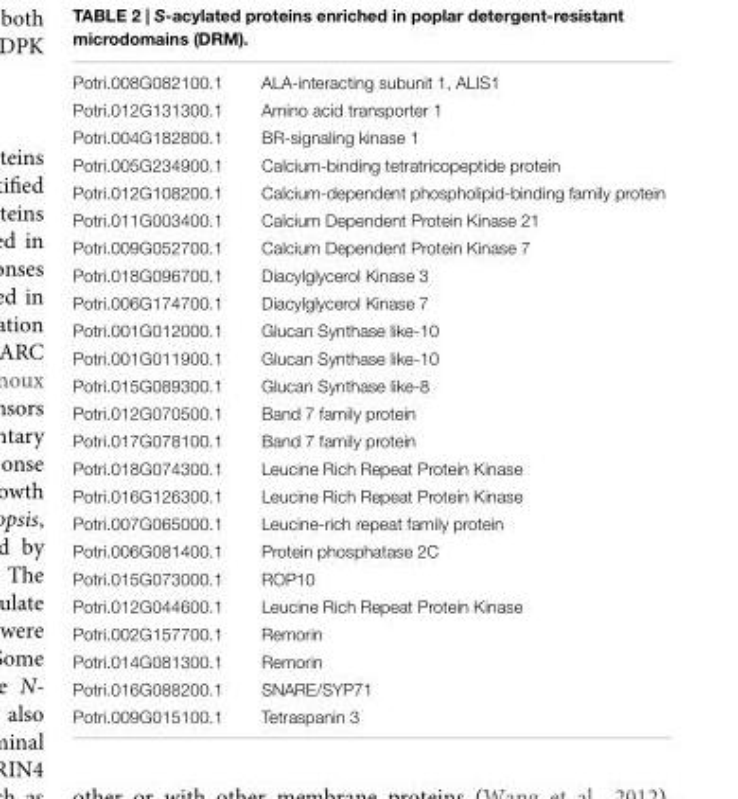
<table><tbody><tr><td>Potri.008G082100.1</td><td>ALA-interacting subunit 1, ALIS1</td></tr><tr><td>Potri.012G131300.1</td><td>Amino acid transporter 1</td></tr><tr><td>Potri.004G182800.1</td><td>BR-signaling kinase 1</td></tr><tr><td>Potri.005G234900.1</td><td>Calcium-binding tetratricopeptide protein</td></tr><tr><td>Potri.012G108200.1</td><td>Calcium-dependent phospholipid-binding family protein</td></tr><tr><td>Potri.011G003400.1</td><td>Calcium Dependent Protein Kinase 21</td></tr><tr><td>Potri.009G052700.1</td><td>Calcium Dependent Protein Kinase 7</td></tr><tr><td>Potri.018G096700.1</td><td>Diacylglycerol Kinase 3</td></tr><tr><td>Potri.006G174700.1</td><td>Diacylglycerol Kinase 7</td></tr><tr><td>Potri.001G012000.1</td><td>Glucan Synthase like-10</td></tr><tr><td>Potri.001G011900.1</td><td>Glucan Synthase like-10</td></tr><tr><td>Potri.015G089300.1</td><td>Glucan Synthase like-8</td></tr><tr><td>Potri.012G070500.1</td><td>Band 7 family protein</td></tr><tr><td>Potri.017G078100.1</td><td>Band 7 family protein</td></tr><tr><td>Potri.018G074300.1</td><td>Leucine Rich Repeat Protein Kinase</td></tr><tr><td>Potri.016G126300.1</td><td>Leucine Rich Repeat Protein Kinase</td></tr><tr><td>Potri.007G065000.1</td><td>Leucine-rich repeat family protein</td></tr><tr><td>Potri.006G081400.1</td><td>Protein phosphatase 2C</td></tr><tr><td>Potri.015G073000.1</td><td>ROP10</td></tr><tr><td>Potri.012G044600.1</td><td>Leucine Rich Repeat Protein Kinase</td></tr><tr><td>Potri.002G157700.1</td><td>Remorin</td></tr><tr><td>Potri.014G081300.1</td><td>Remorin</td></tr><tr><td>Potri.016G088200.1</td><td>SNARE/SYP71</td></tr><tr><td>Potri.009G015100.1</td><td>Tetraspanin 3</td></tr></tbody></table>